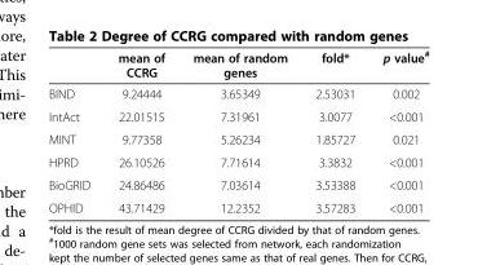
<table><thead><tr><td></td><td>mean of CCRG</td><td>mean of random genes</td><td>fold*</td><td>p value<sup>#</sup></td></tr></thead><tbody><tr><td>BIND</td><td>9.24444</td><td>3.65349</td><td>2.53031</td><td>0.002</td></tr><tr><td>IntAct</td><td>22.01515</td><td>7.31961</td><td>3.0077</td><td>&lt;0.001</td></tr><tr><td>MINT</td><td>9.77358</td><td>5.26234</td><td>1.85727</td><td>0.021</td></tr><tr><td>HPRD</td><td>26.10526</td><td>7.71614</td><td>3.3832</td><td>&lt;0.001</td></tr><tr><td>BioGRID</td><td>24.86486</td><td>7.03614</td><td>3.53388</td><td>&lt;0.001</td></tr><tr><td>OPHID</td><td>43.71429</td><td>12.2352</td><td>3.57283</td><td>&lt;0.001</td></tr></tbody></table>